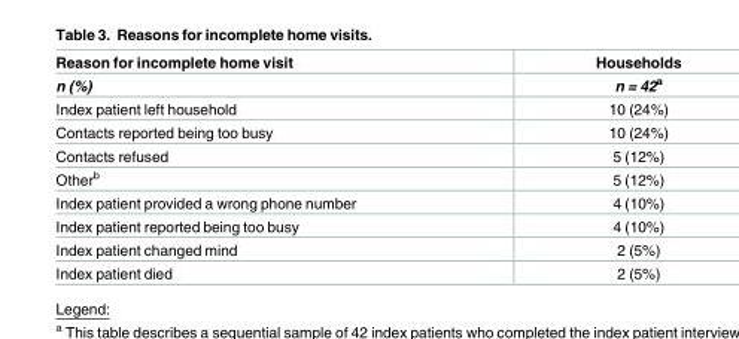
<table><thead><tr><td rowspan="2">Reason for incomplete home visit n (%)</td><td rowspan="2">Households n = 42<sup>a</sup></td></tr><tr></tr></thead><tbody><tr><td>Index patient left household</td><td>10 (24%)</td></tr><tr><td>Contacts reported being too busy</td><td>10 (24%)</td></tr><tr><td>Contacts refused</td><td>5 (12%)</td></tr><tr><td>Other<sup>b</sup></td><td>5 (12%)</td></tr><tr><td>Index patient provided a wrong phone number</td><td>4 (10%)</td></tr><tr><td>Index patient reported being too busy</td><td>4 (10%)</td></tr><tr><td>Index patient changed mind</td><td>2 (5%)</td></tr><tr><td>Index patient died</td><td>2 (5%)</td></tr></tbody></table>